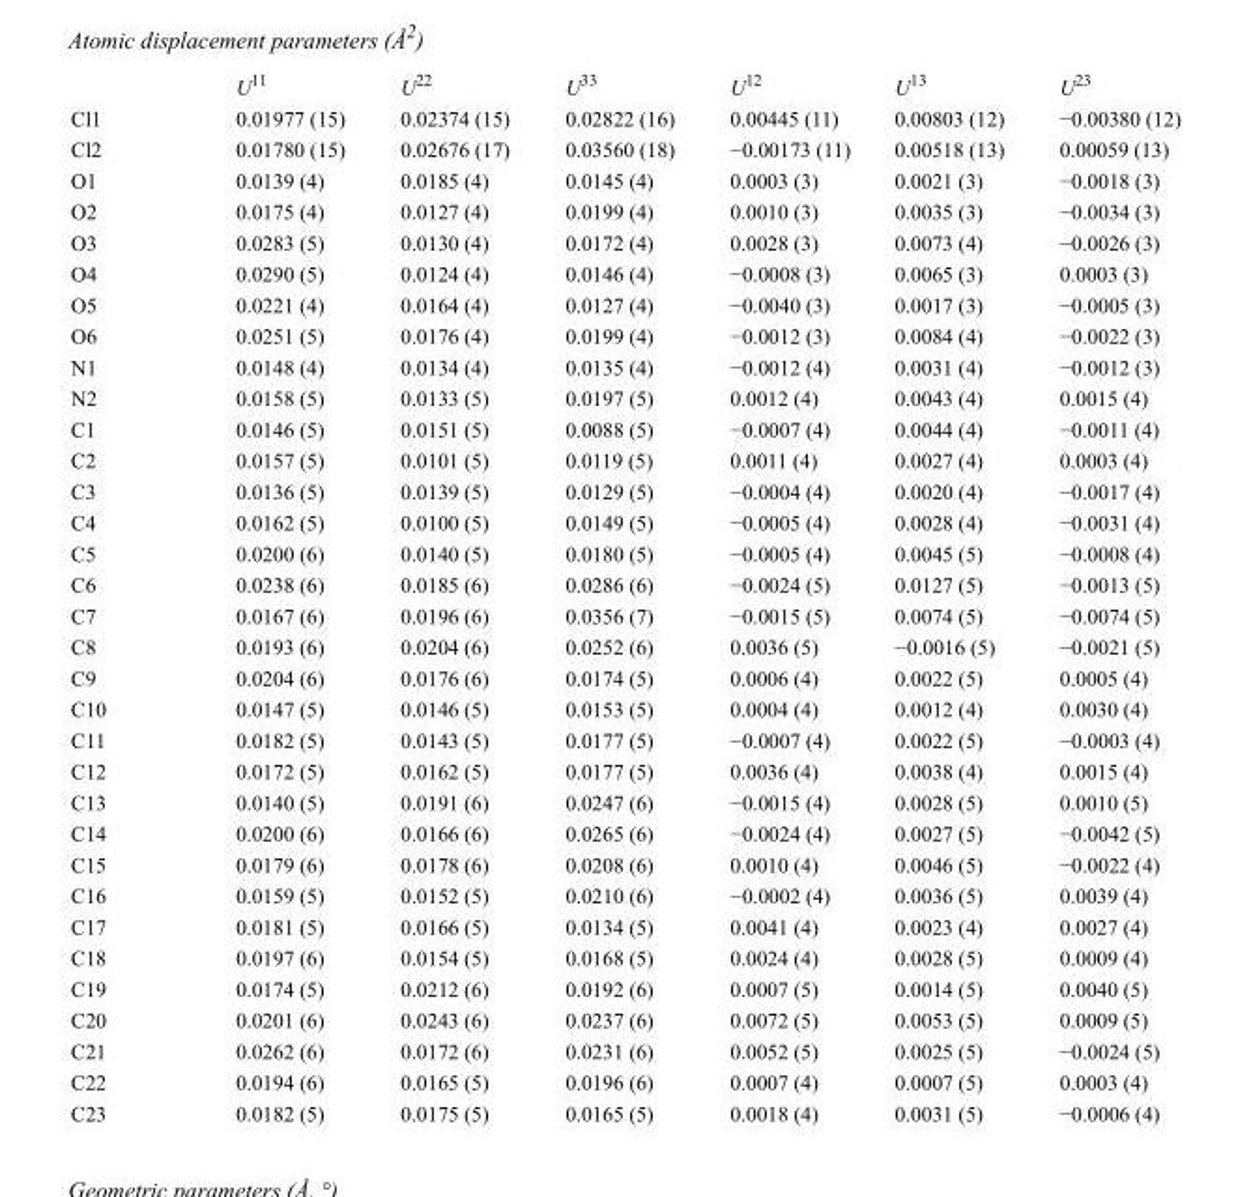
<table><thead><tr><td></td><td>U<sup>11</sup></td><td>U<sup>22</sup></td><td>U<sup>33</sup></td><td>U<sup>12</sup></td><td>U<sup>13</sup></td><td>U<sup>23</sup></td></tr></thead><tbody><tr><td>Cl1</td><td>0.01977 (15)</td><td>0.02374 (15)</td><td>0.02822 (16)</td><td>0.00445 (11)</td><td>0.00803 (12)</td><td>−0.00380 (12)</td></tr><tr><td>Cl2</td><td>0.01780 (15)</td><td>0.02676 (17)</td><td>0.03560 (18)</td><td>−0.00173 (11)</td><td>0.00518 (13)</td><td>0.00059 (13)</td></tr><tr><td>O1</td><td>0.0139 (4)</td><td>0.0185 (4)</td><td>0.0145 (4)</td><td>0.0003 (3)</td><td>0.0021 (3)</td><td>−0.0018 (3)</td></tr><tr><td>O2</td><td>0.0175 (4)</td><td>0.0127 (4)</td><td>0.0199 (4)</td><td>0.0010 (3)</td><td>0.0035 (3)</td><td>−0.0034 (3)</td></tr><tr><td>O3</td><td>0.0283 (5)</td><td>0.0130 (4)</td><td>0.0172 (4)</td><td>0.0028 (3)</td><td>0.0073 (4)</td><td>−0.0026 (3)</td></tr><tr><td>O4</td><td>0.0290 (5)</td><td>0.0124 (4)</td><td>0.0146 (4)</td><td>−0.0008 (3)</td><td>0.0065 (3)</td><td>0.0003 (3)</td></tr><tr><td>O5</td><td>0.0221 (4)</td><td>0.0164 (4)</td><td>0.0127 (4)</td><td>−0.0040 (3)</td><td>0.0017 (3)</td><td>−0.0005 (3)</td></tr><tr><td>O6</td><td>0.0251 (5)</td><td>0.0176 (4)</td><td>0.0199 (4)</td><td>−0.0012 (3)</td><td>0.0084 (4)</td><td>−0.0022 (3)</td></tr><tr><td>N1</td><td>0.0148 (4)</td><td>0.0134 (4)</td><td>0.0135 (4)</td><td>−0.0012 (4)</td><td>0.0031 (4)</td><td>−0.0012 (3)</td></tr><tr><td>N2</td><td>0.0158 (5)</td><td>0.0133 (5)</td><td>0.0197 (5)</td><td>0.0012 (4)</td><td>0.0043 (4)</td><td>0.0015 (4)</td></tr><tr><td>C1</td><td>0.0146 (5)</td><td>0.0151 (5)</td><td>0.0088 (5)</td><td>−0.0007 (4)</td><td>0.0044 (4)</td><td>−0.0011 (4)</td></tr><tr><td>C2</td><td>0.0157 (5)</td><td>0.0101 (5)</td><td>0.0119 (5)</td><td>0.0011 (4)</td><td>0.0027 (4)</td><td>0.0003 (4)</td></tr><tr><td>C3</td><td>0.0136 (5)</td><td>0.0139 (5)</td><td>0.0129 (5)</td><td>−0.0004 (4)</td><td>0.0020 (4)</td><td>−0.0017 (4)</td></tr><tr><td>C4</td><td>0.0162 (5)</td><td>0.0100 (5)</td><td>0.0149 (5)</td><td>−0.0005 (4)</td><td>0.0028 (4)</td><td>−0.0031 (4)</td></tr><tr><td>C5</td><td>0.0200 (6)</td><td>0.0140 (5)</td><td>0.0180 (5)</td><td>−0.0005 (4)</td><td>0.0045 (5)</td><td>−0.0008 (4)</td></tr><tr><td>C6</td><td>0.0238 (6)</td><td>0.0185 (6)</td><td>0.0286 (6)</td><td>−0.0024 (5)</td><td>0.0127 (5)</td><td>−0.0013 (5)</td></tr><tr><td>C7</td><td>0.0167 (6)</td><td>0.0196 (6)</td><td>0.0356 (7)</td><td>−0.0015 (5)</td><td>0.0074 (5)</td><td>−0.0074 (5)</td></tr><tr><td>C8</td><td>0.0193 (6)</td><td>0.0204 (6)</td><td>0.0252 (6)</td><td>0.0036 (5)</td><td>−0.0016 (5)</td><td>−0.0021 (5)</td></tr><tr><td>C9</td><td>0.0204 (6)</td><td>0.0176 (6)</td><td>0.0174 (5)</td><td>0.0006 (4)</td><td>0.0022 (5)</td><td>0.0005 (4)</td></tr><tr><td>C10</td><td>0.0147 (5)</td><td>0.0146 (5)</td><td>0.0153 (5)</td><td>0.0004 (4)</td><td>0.0012 (4)</td><td>0.0030 (4)</td></tr><tr><td>C11</td><td>0.0182 (5)</td><td>0.0143 (5)</td><td>0.0177 (5)</td><td>−0.0007 (4)</td><td>0.0022 (5)</td><td>−0.0003 (4)</td></tr><tr><td>C12</td><td>0.0172 (5)</td><td>0.0162 (5)</td><td>0.0177 (5)</td><td>0.0036 (4)</td><td>0.0038 (4)</td><td>0.0015 (4)</td></tr><tr><td>C13</td><td>0.0140 (5)</td><td>0.0191 (6)</td><td>0.0247 (6)</td><td>−0.0015 (4)</td><td>0.0028 (5)</td><td>0.0010 (5)</td></tr><tr><td>C14</td><td>0.0200 (6)</td><td>0.0166 (6)</td><td>0.0265 (6)</td><td>−0.0024 (4)</td><td>0.0027 (5)</td><td>−0.0042 (5)</td></tr><tr><td>C15</td><td>0.0179 (6)</td><td>0.0178 (6)</td><td>0.0208 (6)</td><td>0.0010 (4)</td><td>0.0046 (5)</td><td>−0.0022 (4)</td></tr><tr><td>C16</td><td>0.0159 (5)</td><td>0.0152 (5)</td><td>0.0210 (6)</td><td>−0.0002 (4)</td><td>0.0036 (5)</td><td>0.0039 (4)</td></tr><tr><td>C17</td><td>0.0181 (5)</td><td>0.0166 (5)</td><td>0.0134 (5)</td><td>0.0041 (4)</td><td>0.0023 (4)</td><td>0.0027 (4)</td></tr><tr><td>C18</td><td>0.0197 (6)</td><td>0.0154 (5)</td><td>0.0168 (5)</td><td>0.0024 (4)</td><td>0.0028 (5)</td><td>0.0009 (4)</td></tr><tr><td>C19</td><td>0.0174 (5)</td><td>0.0212 (6)</td><td>0.0192 (6)</td><td>0.0007 (5)</td><td>0.0014 (5)</td><td>0.0040 (5)</td></tr><tr><td>C20</td><td>0.0201 (6)</td><td>0.0243 (6)</td><td>0.0237 (6)</td><td>0.0072 (5)</td><td>0.0053 (5)</td><td>0.0009 (5)</td></tr><tr><td>C21</td><td>0.0262 (6)</td><td>0.0172 (6)</td><td>0.0231 (6)</td><td>0.0052 (5)</td><td>0.0025 (5)</td><td>−0.0024 (5)</td></tr><tr><td>C22</td><td>0.0194 (6)</td><td>0.0165 (5)</td><td>0.0196 (6)</td><td>0.0007 (4)</td><td>0.0007 (5)</td><td>0.0003 (4)</td></tr><tr><td>C23</td><td>0.0182 (5)</td><td>0.0175 (5)</td><td>0.0165 (5)</td><td>0.0018 (4)</td><td>0.0031 (5)</td><td>−0.0006 (4)</td></tr></tbody></table>